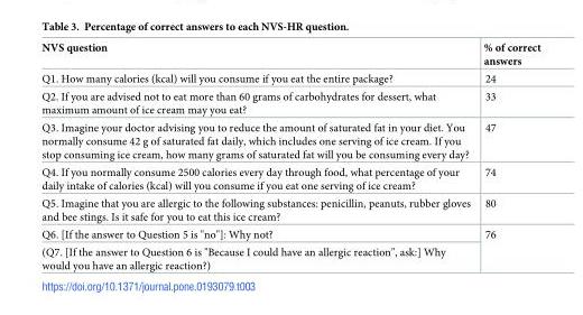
<table><thead><tr><td>NVS question</td><td>% of correct answers</td></tr></thead><tbody><tr><td>Q1. How many calories (kcal) will you consume if you eat the entire package?</td><td>24</td></tr><tr><td>Q2. If you are advised not to eat more than 60 grams of carbohydrates for dessert, what maximum amount of ice cream may you eat?</td><td>33</td></tr><tr><td>Q3. Imagine your doctor advising you to reduce the amount of saturated fat in your diet. You normally consume 42 g of saturated fat daily, which includes one serving of ice cream. If you stop consuming ice cream, how many grams of saturated fat will you be consuming every day?</td><td>47</td></tr><tr><td>Q4. If you normally consume 2500 calories every day through food, what percentage of your daily intake of calories (kcal) will you consume if you eat one serving of ice cream?</td><td>74</td></tr><tr><td>Q5. Imagine that you are allergic to the following substances: penicillin, peanuts, rubber gloves and bee stings. Is it safe for you to eat this ice cream?</td><td>80</td></tr><tr><td>Q6. [If the answer to Question 5 is &quot;no&quot;]: Why not?</td><td rowspan="2">76</td></tr><tr><td>(Q7. [If the answer to Question 6 is &quot;Because I could have an allergic reaction&quot;, ask:] Why would you have an allergic reaction?)</td></tr></tbody></table>